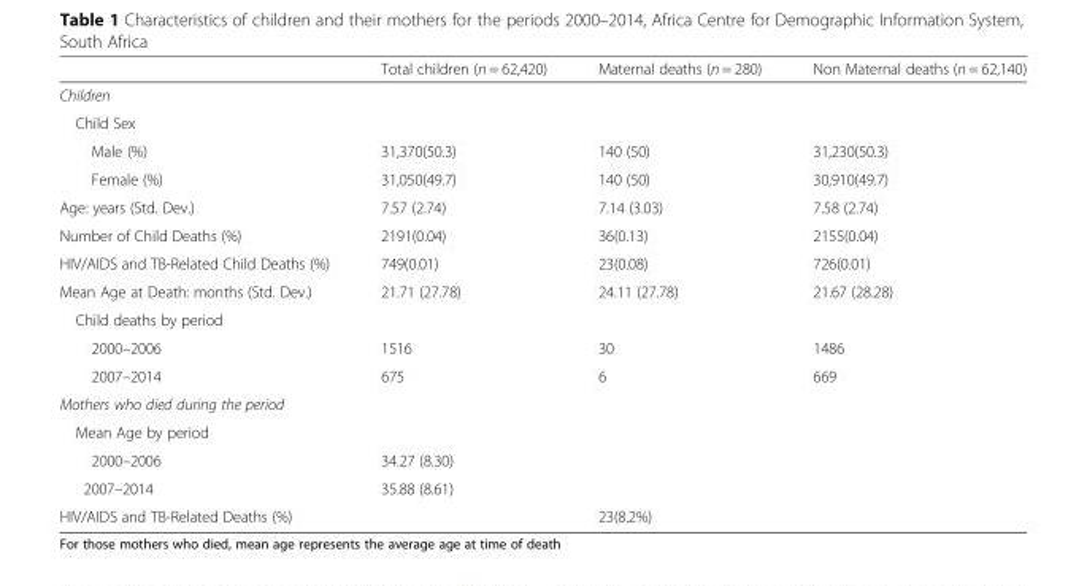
<table><thead><tr><td></td><td>Total children (n = 62,420)</td><td>Maternal deaths (n = 280)</td><td>Non Maternal deaths (n = 62,140)</td></tr></thead><tbody><tr><td colspan="4">Children</td></tr><tr><td colspan="4">Child Sex</td></tr><tr><td>Male (%)</td><td>31,370(50.3)</td><td>140 (50)</td><td>31,230(50.3)</td></tr><tr><td>Female (%)</td><td>31,050(49.7)</td><td>140 (50)</td><td>30,910(49.7)</td></tr><tr><td>Age: years (Std. Dev.)</td><td>7.57 (2.74)</td><td>7.14 (3.03)</td><td>7.58 (2.74)</td></tr><tr><td>Number of Child Deaths (%)</td><td>2191(0.04)</td><td>36(0.13)</td><td>2155(0.04)</td></tr><tr><td>HIV/AIDS and TB-Related Child Deaths (%)</td><td>749(0.01)</td><td>23(0.08)</td><td>726(0.01)</td></tr><tr><td>Mean Age at Death: months (Std. Dev.)</td><td>21.71 (27.78)</td><td>24.11 (27.78)</td><td>21.67 (28.28)</td></tr><tr><td colspan="4">Child deaths by period</td></tr><tr><td>2000–2006</td><td>1516</td><td>30</td><td>1486</td></tr><tr><td>2007–2014</td><td>675</td><td>6</td><td>669</td></tr><tr><td colspan="4">Mothers who died during the period</td></tr><tr><td colspan="4">Mean Age by period</td></tr><tr><td>2000–2006</td><td colspan="3">34.27 (8.30)</td></tr><tr><td>2007–2014</td><td colspan="3">35.88 (8.61)</td></tr><tr><td>HIV/AIDS and TB-Related Deaths (%)</td><td></td><td>23(8.2%)</td><td></td></tr></tbody></table>